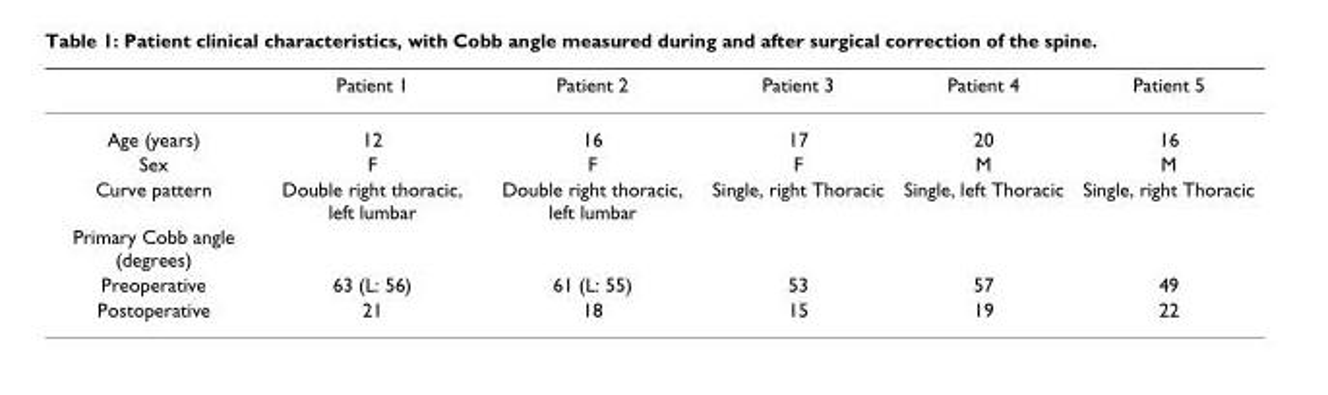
<table><thead><tr><td></td><td>Patient 1</td><td>Patient 2</td><td>Patient 3</td><td>Patient 4</td><td>Patient 5</td></tr></thead><tbody><tr><td>Age (years)</td><td>12</td><td>16</td><td>17</td><td>20</td><td>16</td></tr><tr><td>Sex</td><td>F</td><td>F</td><td>F</td><td>M</td><td>M</td></tr><tr><td>Curve pattern</td><td>Double right thoracic, left lumbar</td><td>Double right thoracic, left lumbar</td><td>Single, right Thoracic</td><td>Single, left Thoracic</td><td>Single, right Thoracic</td></tr><tr><td colspan="6">Primary Cobb angle (degrees)</td></tr><tr><td>Preoperative</td><td>63 (L: 56)</td><td>61 (L: 55)</td><td>53</td><td>57</td><td>49</td></tr><tr><td>Postoperative</td><td>21</td><td>18</td><td>15</td><td>19</td><td>22</td></tr></tbody></table>